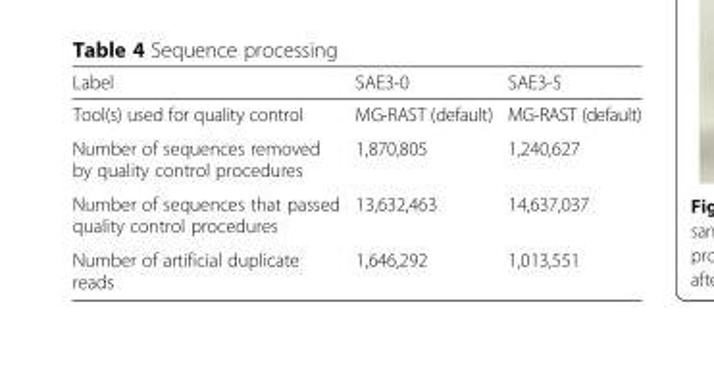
<table><thead><tr><td>Label</td><td>SAE3-0</td><td>SAE3-5</td></tr></thead><tbody><tr><td>Tool(s) used for quality control</td><td>MG-RAST (default)</td><td>MG-RAST (default)</td></tr><tr><td>Number of sequences removed by quality control procedures</td><td>1,870,805</td><td>1,240,627</td></tr><tr><td>Number of sequences that passed quality control procedures</td><td>13,632,463</td><td>14,637,037</td></tr><tr><td>Number of artificial duplicate reads</td><td>1,646,292</td><td>1,013,551</td></tr></tbody></table>